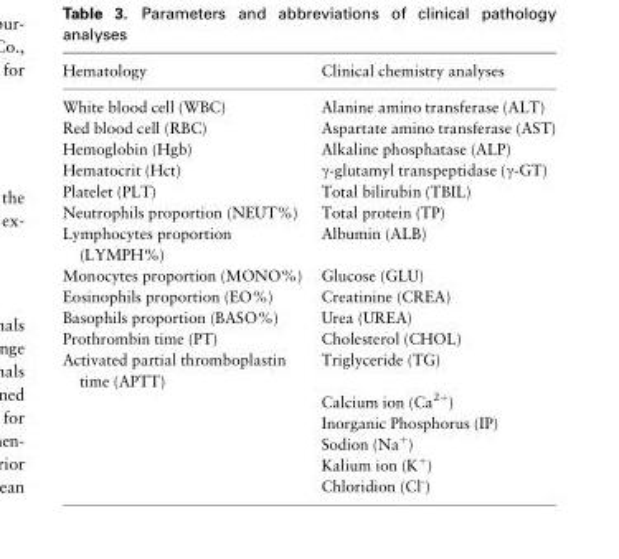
<table><thead><tr><td>Hematology</td><td>Clinical chemistry analyses</td></tr></thead><tbody><tr><td>White blood cell (WBC)</td><td>Alanine amino transferase (ALT)</td></tr><tr><td>Red blood cell (RBC)</td><td>Aspartate amino transferase (AST)</td></tr><tr><td>Hemoglobin (Hgb)</td><td>Alkaline phosphatase (ALP)</td></tr><tr><td>Hematocrit (Hct)</td><td>γ-glutamyl transpeptidase (γ-GT)</td></tr><tr><td>Platelet (PLT)</td><td>Total bilirubin (TBIL)</td></tr><tr><td>Neutrophils proportion (NEUT%)</td><td>Total protein (TP)</td></tr><tr><td>Lymphocytes proportion (LYMPH%)</td><td>Albumin (ALB)</td></tr><tr><td>Monocytes proportion (MONO%)</td><td>Glucose (GLU)</td></tr><tr><td>Eosinophils proportion (EO%)</td><td>Creatinine (CREA)</td></tr><tr><td>Basophils proportion (BASO%)</td><td>Urea (UREA)</td></tr><tr><td>Prothrombin time (PT)</td><td>Cholesterol (CHOL)</td></tr><tr><td rowspan="6">Activated partial thromboplastin time (APTT)</td><td>Triglyceride (TG)</td></tr><tr><td>Calcium ion (Ca<sup>2+</sup>)</td></tr><tr><td>Inorganic Phosphorus (IP)</td></tr><tr><td>Sodion (Na<sup>+</sup>)</td></tr><tr><td>Kalium ion (K<sup>+</sup>)</td></tr><tr><td>Chloridion (Cl<sup>-</sup>)</td></tr></tbody></table>